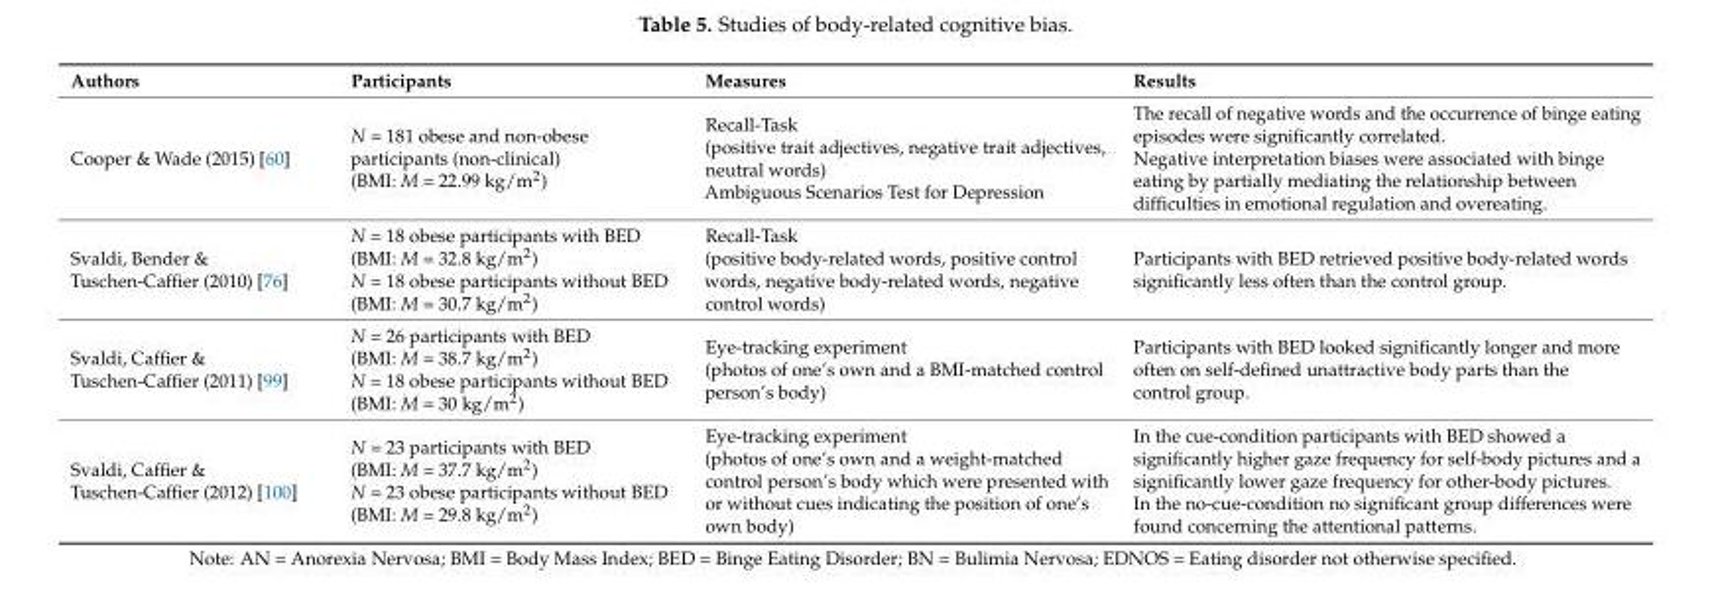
<table><thead><tr><td>Authors</td><td>Participants</td><td>Measures</td><td>Results</td></tr></thead><tbody><tr><td>Cooper &amp; Wade (2015) [60]</td><td>N = 181 obese and non-obese participants (non-clinical) (BMI: M = 22.99 kg/m<sup>2</sup>)</td><td>Recall-Task (positive trait adjectives, negative trait adjectives, neutral words) Ambiguous Scenarios Test for Depression</td><td>The recall of negative words and the occurrence of binge eating episodes were significantly correlated. Negative interpretation biases were associated with binge eating by partially mediating the relationship between difficulties in emotional regulation and overeating.</td></tr><tr><td>Svaldi, Bender &amp; Tuschen-Caffier (2010) [76]</td><td>N = 18 obese participants with BED (BMI: M = 32.8 kg/m<sup>2</sup>) N = 18 obese participants without BED (BMI: M = 30.7 kg/m<sup>2</sup>)</td><td>Recall-Task (positive body-related words, positive control words, negative body-related words, negative control words)</td><td>Participants with BED retrieved positive body-related words significantly less often than the control group.</td></tr><tr><td>Svaldi, Caffier &amp; Tuschen-Caffier (2011) [99]</td><td>N = 26 participants with BED (BMI: M = 38.7 kg/m<sup>2</sup>) N = 18 obese participants without BED (BMI: M = 30 kg/m<sup>2</sup>)</td><td>Eye-tracking experiment (photos of one’s own and a BMI-matched control person’s body)</td><td>Participants with BED looked significantly longer and more often on self-defined unattractive body parts than the control group.</td></tr><tr><td>Svaldi, Caffier &amp; Tuschen-Caffier (2012) [100]</td><td>N = 23 participants with BED (BMI: M = 37.7 kg/m<sup>2</sup>) N = 23 obese participants without BED (BMI: M = 29.8 kg/m<sup>2</sup>)</td><td>Eye-tracking experiment (photos of one’s own and a weight-matched control person’s body which were presented with or without cues indicating the position of one’s own body)</td><td>In the cue-condition participants with BED showed a significantly higher gaze frequency for self-body pictures and a significantly lower gaze frequency for other-body pictures. In the no-cue-condition no significant group differences were found concerning the attentional patterns.</td></tr></tbody></table>